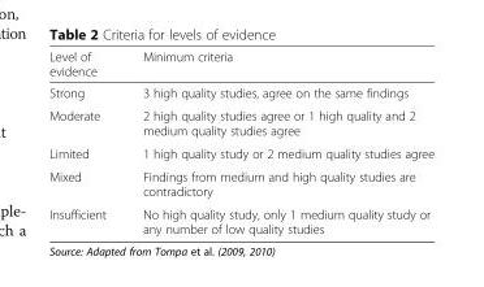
<table><thead><tr><td>Level of evidence</td><td>Minimum criteria</td></tr></thead><tbody><tr><td>Strong</td><td>3 high quality studies, agree on the same findings</td></tr><tr><td>Moderate</td><td>2 high quality studies agree or 1 high quality and 2 medium quality studies agree</td></tr><tr><td>Limited</td><td>1 high quality study or 2 medium quality studies agree</td></tr><tr><td>Mixed</td><td>Findings from medium and high quality studies are contradictory</td></tr><tr><td>Insufficient</td><td>No high quality study, only 1 medium quality study or any number of low quality studies</td></tr></tbody></table>